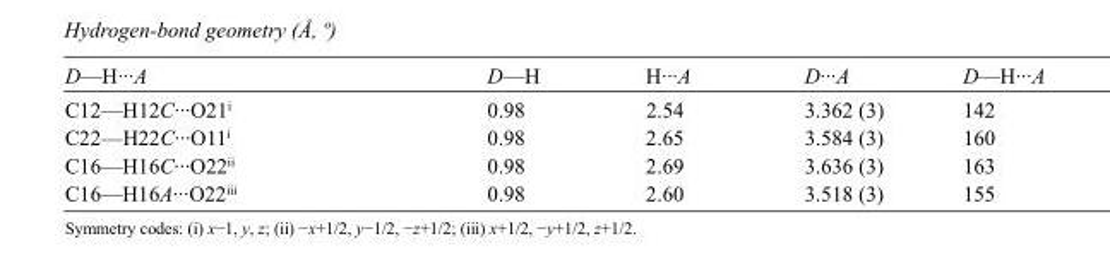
<table><tbody><tr><td>D—H···A</td><td>D—H</td><td>H···A</td><td>D···A</td><td>D—H···A</td></tr><tr><td>C12—H12C···O21<sup>i</sup></td><td>0.98</td><td>2.54</td><td>3.362 (3)</td><td>142</td></tr><tr><td>C22—H22C···O11<sup>i</sup></td><td>0.98</td><td>2.65</td><td>3.584 (3)</td><td>160</td></tr><tr><td>C16—H16C···O22<sup>ii</sup></td><td>0.98</td><td>2.69</td><td>3.636 (3)</td><td>163</td></tr><tr><td>C16—H16A···O22<sup>iii</sup></td><td>0.98</td><td>2.60</td><td>3.518 (3)</td><td>155</td></tr></tbody></table>